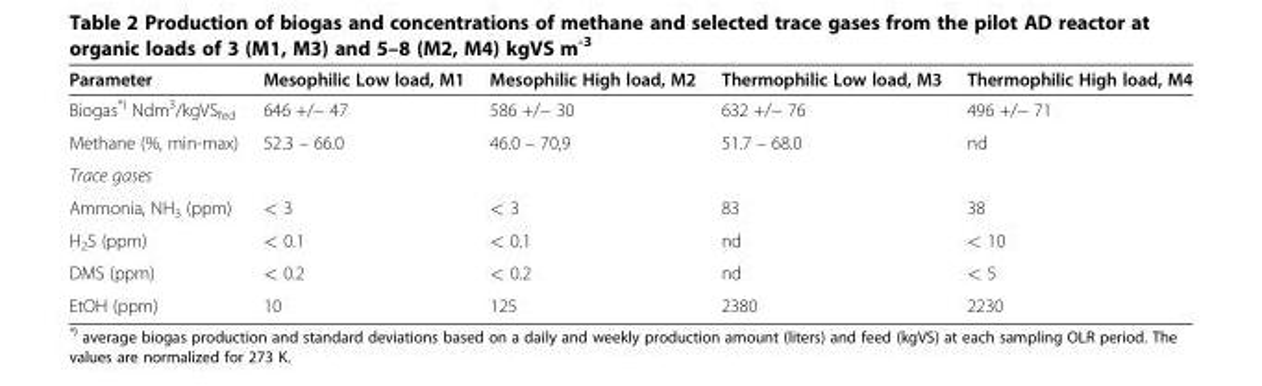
<table><thead><tr><td>Parameter</td><td>Mesophilic Low load, M1</td><td>Mesophilic High load, M2</td><td>Thermophilic Low load, M3</td><td>Thermophilic High load, M4</td></tr></thead><tbody><tr><td>Biogas<sup>*)</sup> Ndm<sup>3</sup>/kgVS<sub>fed</sub></td><td>646 +/− 47</td><td>586 +/− 30</td><td>632 +/− 76</td><td>496 +/− 71</td></tr><tr><td>Methane (%, min-max)</td><td>52.3 – 66.0</td><td>46.0 – 70,9</td><td>51.7 – 68.0</td><td>nd</td></tr><tr><td colspan="5">Trace gases</td></tr><tr><td>Ammonia, NH<sub>3</sub> (ppm)</td><td>&lt; 3</td><td>&lt; 3</td><td>83</td><td>38</td></tr><tr><td>H<sub>2</sub>S (ppm)</td><td>&lt; 0.1</td><td>&lt; 0.1</td><td>nd</td><td>&lt; 10</td></tr><tr><td>DMS (ppm)</td><td>&lt; 0.2</td><td>&lt; 0.2</td><td>nd</td><td>&lt; 5</td></tr><tr><td>EtOH (ppm)</td><td>10</td><td>125</td><td>2380</td><td>2230</td></tr></tbody></table>